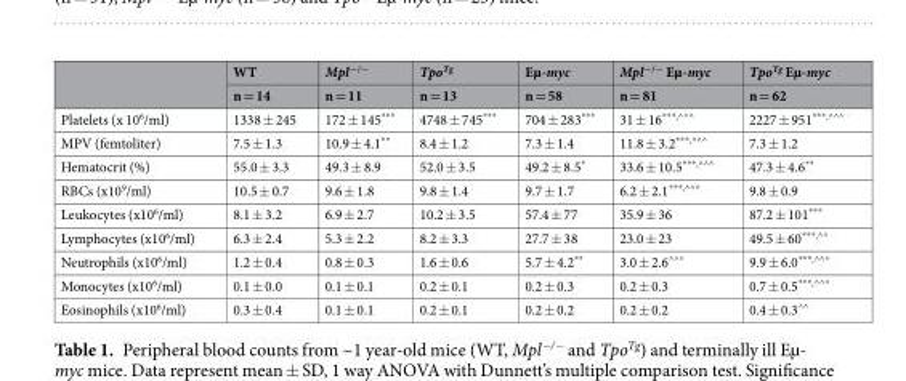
<table><thead><tr><td rowspan="2"></td><td rowspan="2">WT n = 14</td><td rowspan="2">Mpl<sup>−/−</sup> n = 11</td><td rowspan="2">Tpo<sup>Tg</sup> n = 13</td><td rowspan="2">Eµ-myc n = 58</td><td rowspan="2">Mpl<sup>−/−</sup> Eµ-myc n = 81</td><td rowspan="2">Tpo<sup>Tg</sup> Eµ-myc n = 62</td></tr><tr></tr></thead><tbody><tr><td>Platelets (x 10<sup>6</sup>/ml)</td><td>1338 ± 245</td><td>172 ± 145***</td><td>4748 ± 745***</td><td>704 ± 283***</td><td>31 ± 16***,^^^</td><td>2227 ± 951***,^^^</td></tr><tr><td>MPV (femtoliter)</td><td>7.5 ± 1.3</td><td>10.9 ± 4.1**</td><td>8.4 ± 1.2</td><td>7.3 ± 1.4</td><td>11.8 ± 3.2***,^^^</td><td>7.3 ± 1.2</td></tr><tr><td>Hematocrit (%)</td><td>55.0 ± 3.3</td><td>49.3 ± 8.9</td><td>52.0 ± 3.5</td><td>49.2 ± 8.5*</td><td>33.6 ± 10.5***,^^^</td><td>47.3 ± 4.6**</td></tr><tr><td>RBCs (x10<sup>9</sup>/ml)</td><td>10.5 ± 0.7</td><td>9.6 ± 1.8</td><td>9.8 ± 1.4</td><td>9.7 ± 1.7</td><td>6.2 ± 2.1***,^^^</td><td>9.8 ± 0.9</td></tr><tr><td>Leukocytes (x10<sup>6</sup>/ml)</td><td>8.1 ± 3.2</td><td>6.9 ± 2.7</td><td>10.2 ± 3.5</td><td>57.4 ± 77</td><td>35.9 ± 36</td><td>87.2 ± 101***</td></tr><tr><td>Lymphocytes (x10<sup>6</sup>/ml)</td><td>6.3 ± 2.4</td><td>5.3 ± 2.2</td><td>8.2 ± 3.3</td><td>27.7 ± 38</td><td>23.0 ± 23</td><td>49.5 ± 60***,^^</td></tr><tr><td>Neutrophils (x10<sup>6</sup>/ml)</td><td>1.2 ± 0.4</td><td>0.8 ± 0.3</td><td>1.6 ± 0.6</td><td>5.7 ± 4.2**</td><td>3.0 ± 2.6^^^</td><td>9.9 ± 6.0***,^^^</td></tr><tr><td>Monocytes (x10<sup>6</sup>/ml)</td><td>0.1 ± 0.0</td><td>0.1 ± 0.1</td><td>0.2 ± 0.1</td><td>0.2 ± 0.3</td><td>0.2 ± 0.3</td><td>0.7 ± 0.5***,^^^</td></tr><tr><td>Eosinophils (x10<sup>6</sup>/ml)</td><td>0.3 ± 0.4</td><td>0.1 ± 0.1</td><td>0.2 ± 0.1</td><td>0.2 ± 0.2</td><td>0.2 ± 0.2</td><td>0.4 ± 0.3^^</td></tr></tbody></table>